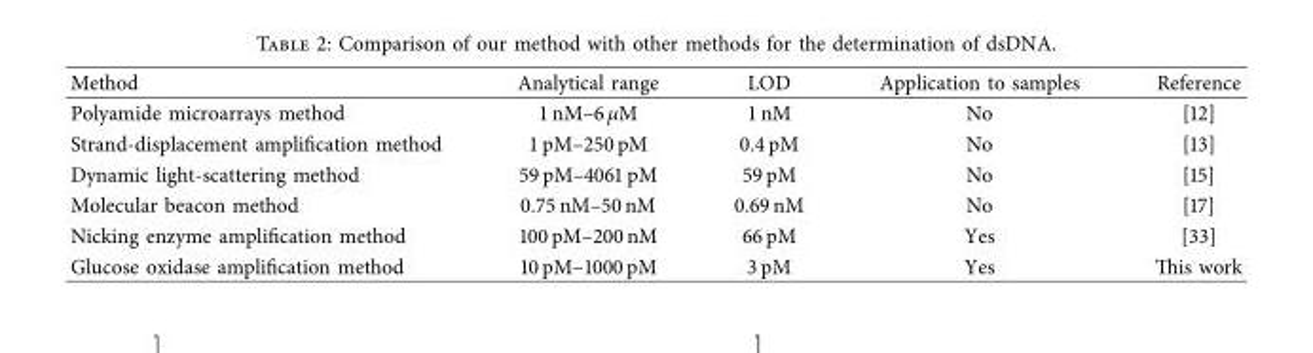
<table><thead><tr><td>Method</td><td>Analytical range</td><td>LOD</td><td>Application to samples</td><td>Reference</td></tr></thead><tbody><tr><td>Polyamide microarrays method</td><td>1 nM–6 μM</td><td>1 nM</td><td>No</td><td>[12]</td></tr><tr><td>Strand-displacement amplification method</td><td>1 pM–250 pM</td><td>0.4 pM</td><td>No</td><td>[13]</td></tr><tr><td>Dynamic light-scattering method</td><td>59 pM–4061 pM</td><td>59 pM</td><td>No</td><td>[15]</td></tr><tr><td>Molecular beacon method</td><td>0.75 nM–50 nM</td><td>0.69 nM</td><td>No</td><td>[17]</td></tr><tr><td>Nicking enzyme amplification method</td><td>100 pM–200 nM</td><td>66 pM</td><td>Yes</td><td>[33]</td></tr><tr><td>Glucose oxidase amplification method</td><td>10 pM–1000 pM</td><td>3 pM</td><td>Yes</td><td>Tis work</td></tr></tbody></table>